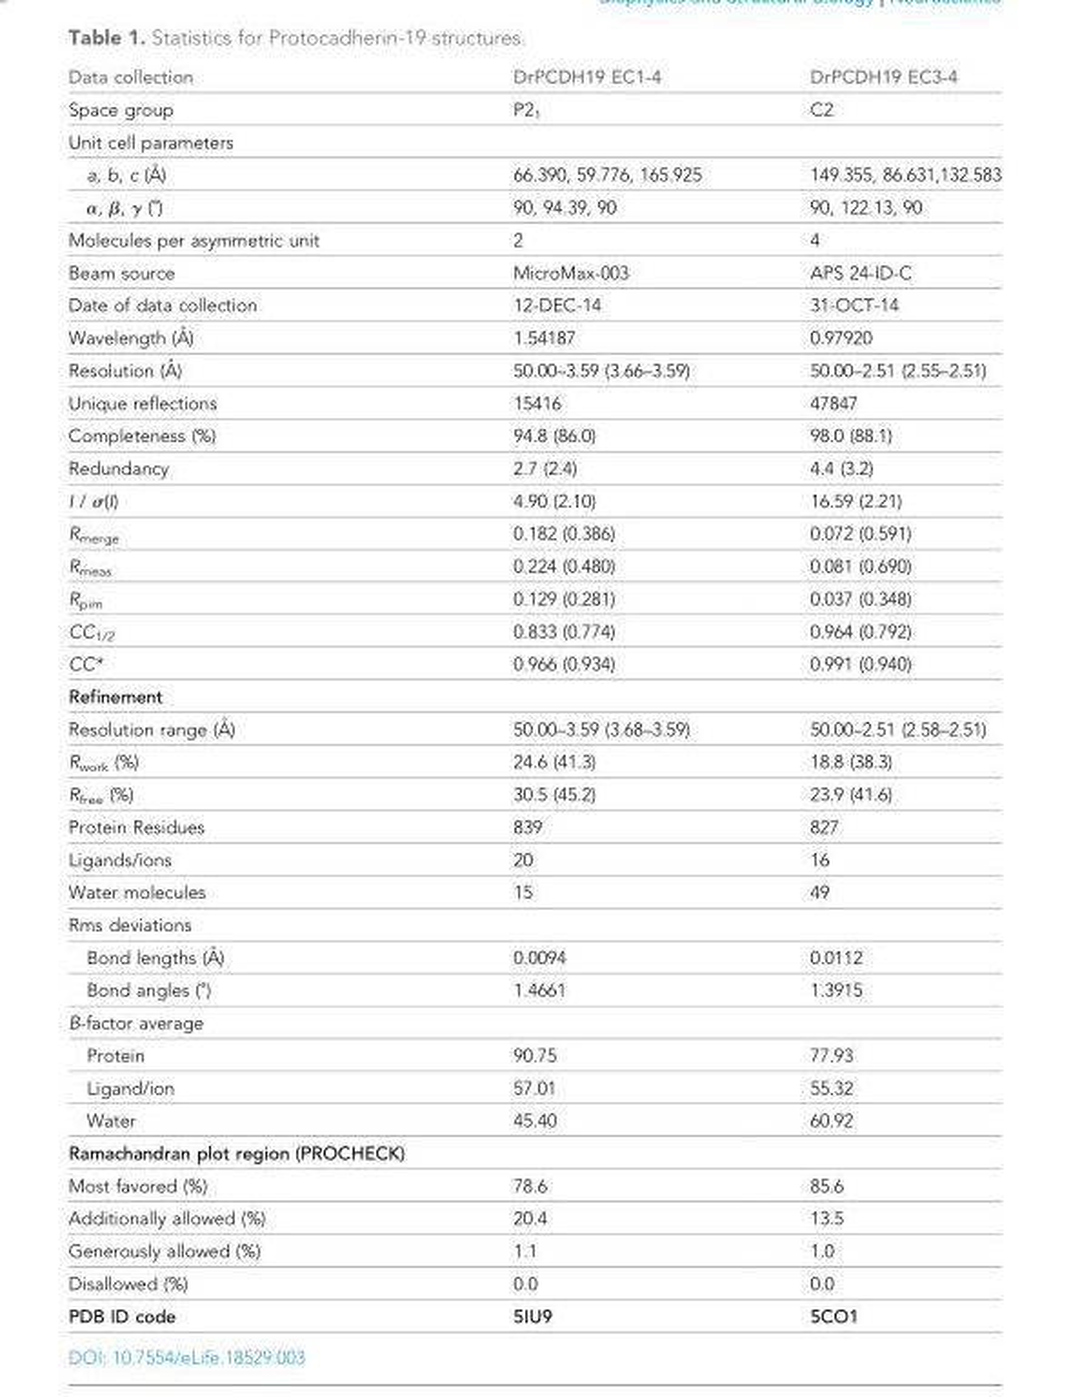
<table><thead><tr><td>Data collection</td><td>DrPCDH19 EC1-4</td><td>DrPCDH19 EC3-4</td></tr></thead><tbody><tr><td>Space group</td><td>P2<sub>1</sub></td><td>C2</td></tr><tr><td colspan="3">Unit cell parameters</td></tr><tr><td>a, b, c (A˚ )</td><td>66.390, 59.776, 165.925</td><td>149.355, 86.631,132.583</td></tr><tr><td>α, β, γ (˚)</td><td>90, 94.39, 90</td><td>90, 122.13, 90</td></tr><tr><td>Molecules per asymmetric unit</td><td>2</td><td>4</td></tr><tr><td>Beam source</td><td>MicroMax-003</td><td>APS 24-ID-C</td></tr><tr><td>Date of data collection</td><td>12-DEC-14</td><td>31-OCT-14</td></tr><tr><td>Wavelength (A˚ )</td><td>1.54187</td><td>0.97920</td></tr><tr><td>Resolution (A˚ )</td><td>50.00–3.59 (3.66–3.59)</td><td>50.00–2.51 (2.55–2.51)</td></tr><tr><td>Unique reflections</td><td>15416</td><td>47847</td></tr><tr><td>Completeness (%)</td><td>94.8 (86.0)</td><td>98.0 (88.1)</td></tr><tr><td>Redundancy</td><td>2.7 (2.4)</td><td>4.4 (3.2)</td></tr><tr><td>I / σ(I)</td><td>4.90 (2.10)</td><td>16.59 (2.21)</td></tr><tr><td>R<sub>merge</sub></td><td>0.182 (0.386)</td><td>0.072 (0.591)</td></tr><tr><td>R<sub>meas</sub></td><td>0.224 (0.480)</td><td>0.081 (0.690)</td></tr><tr><td>R<sub>pim</sub></td><td>0.129 (0.281)</td><td>0.037 (0.348)</td></tr><tr><td>CC<sub>1/2</sub></td><td>0.833 (0.774)</td><td>0.964 (0.792)</td></tr><tr><td>CC*</td><td>0.966 (0.934)</td><td>0.991 (0.940)</td></tr><tr><td colspan="3">Refinement</td></tr><tr><td>Resolution range (A˚ )</td><td>50.00–3.59 (3.68–3.59)</td><td>50.00–2.51 (2.58–2.51)</td></tr><tr><td>R<sub>work</sub> (%)</td><td>24.6 (41.3)</td><td>18.8 (38.3)</td></tr><tr><td>R<sub>free</sub> (%)</td><td>30.5 (45.2)</td><td>23.9 (41.6)</td></tr><tr><td>Protein Residues</td><td>839</td><td>827</td></tr><tr><td>Ligands/ions</td><td>20</td><td>16</td></tr><tr><td>Water molecules</td><td>15</td><td>49</td></tr><tr><td colspan="3">Rms deviations</td></tr><tr><td>Bond lengths (A˚ )</td><td>0.0094</td><td>0.0112</td></tr><tr><td>Bond angles (˚)</td><td>1.4661</td><td>1.3915</td></tr><tr><td colspan="3">B-factor average</td></tr><tr><td>Protein</td><td>90.75</td><td>77.93</td></tr><tr><td>Ligand/ion</td><td>57.01</td><td>55.32</td></tr><tr><td>Water</td><td>45.40</td><td>60.92</td></tr><tr><td colspan="3">Ramachandran plot region (PROCHECK)</td></tr><tr><td>Most favored (%)</td><td>78.6</td><td>85.6</td></tr><tr><td>Additionally allowed (%)</td><td>20.4</td><td>13.5</td></tr><tr><td>Generously allowed (%)</td><td>1.1</td><td>1.0</td></tr><tr><td>Disallowed (%)</td><td>0.0</td><td>0.0</td></tr><tr><td>PDB ID code</td><td>5IU9</td><td>5CO1</td></tr></tbody></table>